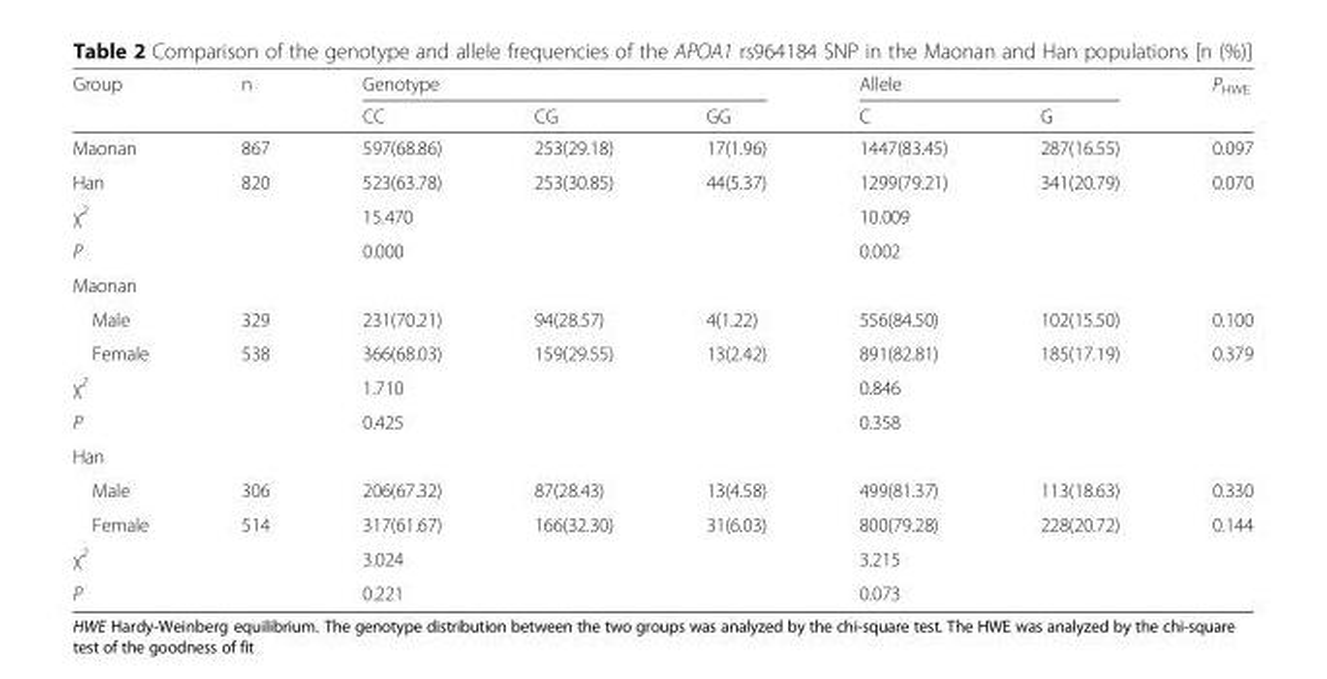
<table><thead><tr><td rowspan="2">Group</td><td rowspan="2">n</td><td colspan="3">Genotype</td><td colspan="2">Allele</td><td rowspan="2">P<sub>HWE</sub></td></tr><tr><td>CC</td><td>CG</td><td>GG</td><td>C</td><td>G</td></tr></thead><tbody><tr><td>Maonan</td><td>867</td><td>597(68.86)</td><td>253(29.18)</td><td>17(1.96)</td><td>1447(83.45)</td><td>287(16.55)</td><td>0.097</td></tr><tr><td>Han</td><td>820</td><td>523(63.78)</td><td>253(30.85)</td><td>44(5.37)</td><td>1299(79.21)</td><td>341(20.79)</td><td>0.070</td></tr><tr><td>χ<sup>2</sup></td><td></td><td colspan="3">15.470</td><td colspan="2">10.009</td><td></td></tr><tr><td>P</td><td></td><td colspan="3">0.000</td><td colspan="2">0.002</td><td></td></tr><tr><td colspan="8">Maonan</td></tr><tr><td>Male</td><td>329</td><td>231(70.21)</td><td>94(28.57)</td><td>4(1.22)</td><td>556(84.50)</td><td>102(15.50)</td><td>0.100</td></tr><tr><td>Female</td><td>538</td><td>366(68.03)</td><td>159(29.55)</td><td>13(2.42)</td><td>891(82.81)</td><td>185(17.19)</td><td>0.379</td></tr><tr><td>χ<sup>2</sup></td><td></td><td colspan="3">1.710</td><td colspan="2">0.846</td><td></td></tr><tr><td>P</td><td></td><td colspan="3">0.425</td><td colspan="2">0.358</td><td></td></tr><tr><td colspan="8">Han</td></tr><tr><td>Male</td><td>306</td><td>206(67.32)</td><td>87(28.43)</td><td>13(4.58)</td><td>499(81.37)</td><td>113(18.63)</td><td>0.330</td></tr><tr><td>Female</td><td>514</td><td>317(61.67)</td><td>166(32.30)</td><td>31(6.03)</td><td>800(79.28)</td><td>228(20.72)</td><td>0.144</td></tr><tr><td>χ<sup>2</sup></td><td></td><td colspan="3">3.024</td><td colspan="2">3.215</td><td></td></tr><tr><td>P</td><td></td><td colspan="3">0.221</td><td colspan="2">0.073</td><td></td></tr></tbody></table>